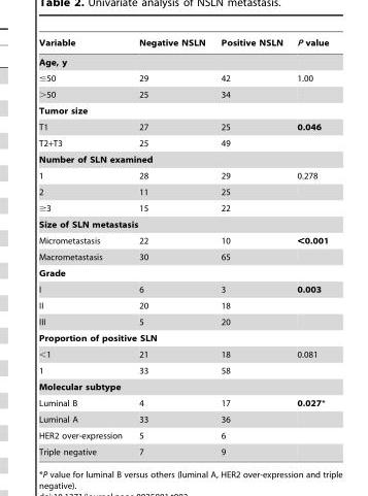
<table><thead><tr><td>Variable</td><td>Negative NSLN</td><td>Positive NSLN</td><td>P value</td></tr></thead><tbody><tr><td colspan="4">Age, y</td></tr><tr><td>≤50</td><td>29</td><td>42</td><td>1.00</td></tr><tr><td>&gt;50</td><td>25</td><td>34</td><td></td></tr><tr><td colspan="4">Tumor size</td></tr><tr><td>T1</td><td>27</td><td>25</td><td>0.046</td></tr><tr><td>T2+T3</td><td>25</td><td>49</td><td></td></tr><tr><td colspan="4">Number of SLN examined</td></tr><tr><td>1</td><td>28</td><td>29</td><td>0.278</td></tr><tr><td>2</td><td>11</td><td>25</td><td></td></tr><tr><td>≥3</td><td>15</td><td>22</td><td></td></tr><tr><td colspan="4">Size of SLN metastasis</td></tr><tr><td>Micrometastasis</td><td>22</td><td>10</td><td>&lt;0.001</td></tr><tr><td>Macrometastasis</td><td>30</td><td>65</td><td></td></tr><tr><td colspan="4">Grade</td></tr><tr><td>I</td><td>6</td><td>3</td><td>0.003</td></tr><tr><td>II</td><td>20</td><td>18</td><td></td></tr><tr><td>III</td><td>5</td><td>20</td><td></td></tr><tr><td colspan="4">Proportion of positive SLN</td></tr><tr><td>&lt;1</td><td>21</td><td>18</td><td>0.081</td></tr><tr><td>1</td><td>33</td><td>58</td><td></td></tr><tr><td colspan="4">Molecular subtype</td></tr><tr><td>Luminal B</td><td>4</td><td>17</td><td>0.027*</td></tr><tr><td>Luminal A</td><td>33</td><td>36</td><td></td></tr><tr><td>HER2 over-expression</td><td>5</td><td>6</td><td></td></tr><tr><td>Triple negative</td><td>7</td><td>9</td><td></td></tr></tbody></table>